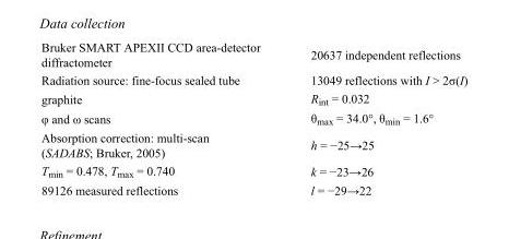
<table><tbody><tr><td>Bruker SMART APEXII CCD area-detector diffractometer</td><td>20637 independent reflections</td></tr><tr><td>Radiation source: fine-focus sealed tube</td><td>13049 reflections with I &gt; 2σ(I)</td></tr><tr><td>graphite</td><td>R<sub>int</sub> = 0.032</td></tr><tr><td>φ and ω scans</td><td>θ<sub>max</sub> = 34.0°, θ<sub>min</sub> = 1.6°</td></tr><tr><td>Absorption correction: multi-scan (SADABS; Bruker, 2005)</td><td>h = −25→25</td></tr><tr><td>T<sub>min</sub> = 0.478, T<sub>max</sub> = 0.740</td><td>k = −23→26</td></tr><tr><td>89126 measured reflections</td><td>l = −29→22</td></tr></tbody></table>